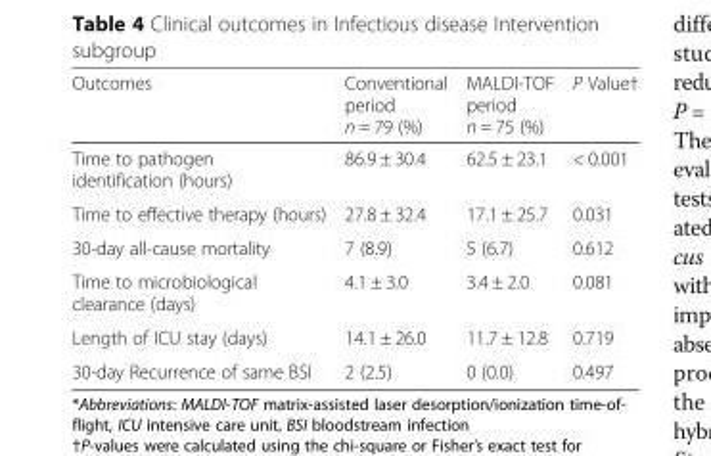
<table><thead><tr><td>Outcomes</td><td>Conventional period n = 79 (%)</td><td>MALDI-TOF period n = 75 (%)</td><td>P Value†</td></tr></thead><tbody><tr><td>Time to pathogen identification (hours)</td><td>86.9 ± 30.4</td><td>62.5 ± 23.1</td><td>&lt; 0.001</td></tr><tr><td>Time to effective therapy (hours)</td><td>27.8 ± 32.4</td><td>17.1 ± 25.7</td><td>0.031</td></tr><tr><td>30-day all-cause mortality</td><td>7 (8.9)</td><td>5 (6.7)</td><td>0.612</td></tr><tr><td>Time to microbiological clearance (days)</td><td>4.1 ± 3.0</td><td>3.4 ± 2.0</td><td>0.081</td></tr><tr><td>Length of ICU stay (days)</td><td>14.1 ± 26.0</td><td>11.7 ± 12.8</td><td>0.719</td></tr><tr><td>30-day Recurrence of same BSI</td><td>2 (2.5)</td><td>0 (0.0)</td><td>0.497</td></tr></tbody></table>